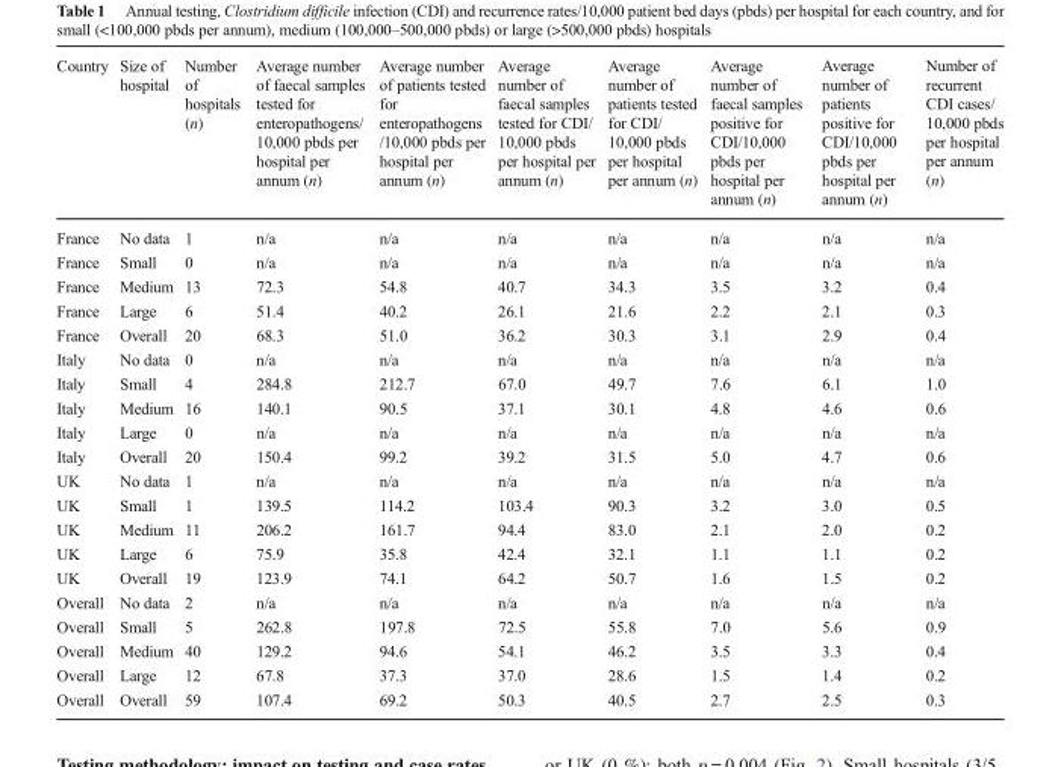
<table><thead><tr><td>Country</td><td>Size of hospital</td><td>Number of hospitals (n)</td><td>Average number of faecal samples tested for enteropathogens/ 10,000 pbds per hospital per annum (n)</td><td>Average number of patients tested for enteropathogens /10,000 pbds per hospital per annum (n)</td><td>Average number of faecal samples tested for CDI/ 10,000 pbds per hospital per annum (n)</td><td>Average number of patients tested for CDI/ 10,000 pbds per hospital per annum (n)</td><td>Average number of faecal samples positive for CDI/10,000 pbds per hospital per annum (n)</td><td>Average number of patients positive for CDI/10,000 pbds per hospital per annum (n)</td><td>Number of recurrent CDI cases/ 10,000 pbds per hospital per annum (n)</td></tr></thead><tbody><tr><td>France</td><td>No data</td><td>1</td><td>n/a</td><td>n/a</td><td>n/a</td><td>n/a</td><td>n/a</td><td>n/a</td><td>n/a</td></tr><tr><td>France</td><td>Small</td><td>0</td><td>n/a</td><td>n/a</td><td>n/a</td><td>n/a</td><td>n/a</td><td>n/a</td><td>n/a</td></tr><tr><td>France</td><td>Medium</td><td>13</td><td>72.3</td><td>54.8</td><td>40.7</td><td>34.3</td><td>3.5</td><td>3.2</td><td>0.4</td></tr><tr><td>France</td><td>Large</td><td>6</td><td>51.4</td><td>40.2</td><td>26.1</td><td>21.6</td><td>2.2</td><td>2.1</td><td>0.3</td></tr><tr><td>France</td><td>Overall</td><td>20</td><td>68.3</td><td>51.0</td><td>36.2</td><td>30.3</td><td>3.1</td><td>2.9</td><td>0.4</td></tr><tr><td>Italy</td><td>No data</td><td>0</td><td>n/a</td><td>n/a</td><td>n/a</td><td>n/a</td><td>n/a</td><td>n/a</td><td>n/a</td></tr><tr><td>Italy</td><td>Small</td><td>4</td><td>284.8</td><td>212.7</td><td>67.0</td><td>49.7</td><td>7.6</td><td>6.1</td><td>1.0</td></tr><tr><td>Italy</td><td>Medium</td><td>16</td><td>140.1</td><td>90.5</td><td>37.1</td><td>30.1</td><td>4.8</td><td>4.6</td><td>0.6</td></tr><tr><td>Italy</td><td>Large</td><td>0</td><td>n/a</td><td>n/a</td><td>n/a</td><td>n/a</td><td>n/a</td><td>n/a</td><td>n/a</td></tr><tr><td>Italy</td><td>Overall</td><td>20</td><td>150.4</td><td>99.2</td><td>39.2</td><td>31.5</td><td>5.0</td><td>4.7</td><td>0.6</td></tr><tr><td>UK</td><td>No data</td><td>1</td><td>n/a</td><td>n/a</td><td>n/a</td><td>n/a</td><td>n/a</td><td>n/a</td><td>n/a</td></tr><tr><td>UK</td><td>Small</td><td>1</td><td>139.5</td><td>114.2</td><td>103.4</td><td>90.3</td><td>3.2</td><td>3.0</td><td>0.5</td></tr><tr><td>UK</td><td>Medium</td><td>11</td><td>206.2</td><td>161.7</td><td>94.4</td><td>83.0</td><td>2.1</td><td>2.0</td><td>0.2</td></tr><tr><td>UK</td><td>Large</td><td>6</td><td>75.9</td><td>35.8</td><td>42.4</td><td>32.1</td><td>1.1</td><td>1.1</td><td>0.2</td></tr><tr><td>UK</td><td>Overall</td><td>19</td><td>123.9</td><td>74.1</td><td>64.2</td><td>50.7</td><td>1.6</td><td>1.5</td><td>0.2</td></tr><tr><td>Overall</td><td>No data</td><td>2</td><td>n/a</td><td>n/a</td><td>n/a</td><td>n/a</td><td>n/a</td><td>n/a</td><td>n/a</td></tr><tr><td>Overall</td><td>Small</td><td>5</td><td>262.8</td><td>197.8</td><td>72.5</td><td>55.8</td><td>7.0</td><td>5.6</td><td>0.9</td></tr><tr><td>Overall</td><td>Medium</td><td>40</td><td>129.2</td><td>94.6</td><td>54.1</td><td>46.2</td><td>3.5</td><td>3.3</td><td>0.4</td></tr><tr><td>Overall</td><td>Large</td><td>12</td><td>67.8</td><td>37.3</td><td>37.0</td><td>28.6</td><td>1.5</td><td>1.4</td><td>0.2</td></tr><tr><td>Overall</td><td>Overall</td><td>59</td><td>107.4</td><td>69.2</td><td>50.3</td><td>40.5</td><td>2.7</td><td>2.5</td><td>0.3</td></tr></tbody></table>